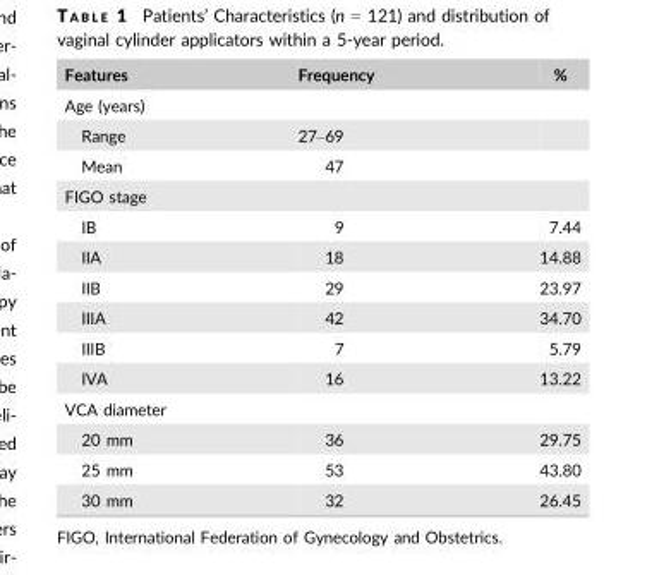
<table><thead><tr><td>Features</td><td>Frequency</td><td>%</td></tr></thead><tbody><tr><td colspan="3">Age (years)</td></tr><tr><td>Range</td><td>27–69</td><td></td></tr><tr><td>Mean</td><td>47</td><td></td></tr><tr><td colspan="3">FIGO stage</td></tr><tr><td>IB</td><td>9</td><td>7.44</td></tr><tr><td>IIA</td><td>18</td><td>14.88</td></tr><tr><td>IIB</td><td>29</td><td>23.97</td></tr><tr><td>IIIA</td><td>42</td><td>34.70</td></tr><tr><td>IIIB</td><td>7</td><td>5.79</td></tr><tr><td>IVA</td><td>16</td><td>13.22</td></tr><tr><td colspan="3">VCA diameter</td></tr><tr><td>20 mm</td><td>36</td><td>29.75</td></tr><tr><td>25 mm</td><td>53</td><td>43.80</td></tr><tr><td>30 mm</td><td>32</td><td>26.45</td></tr></tbody></table>